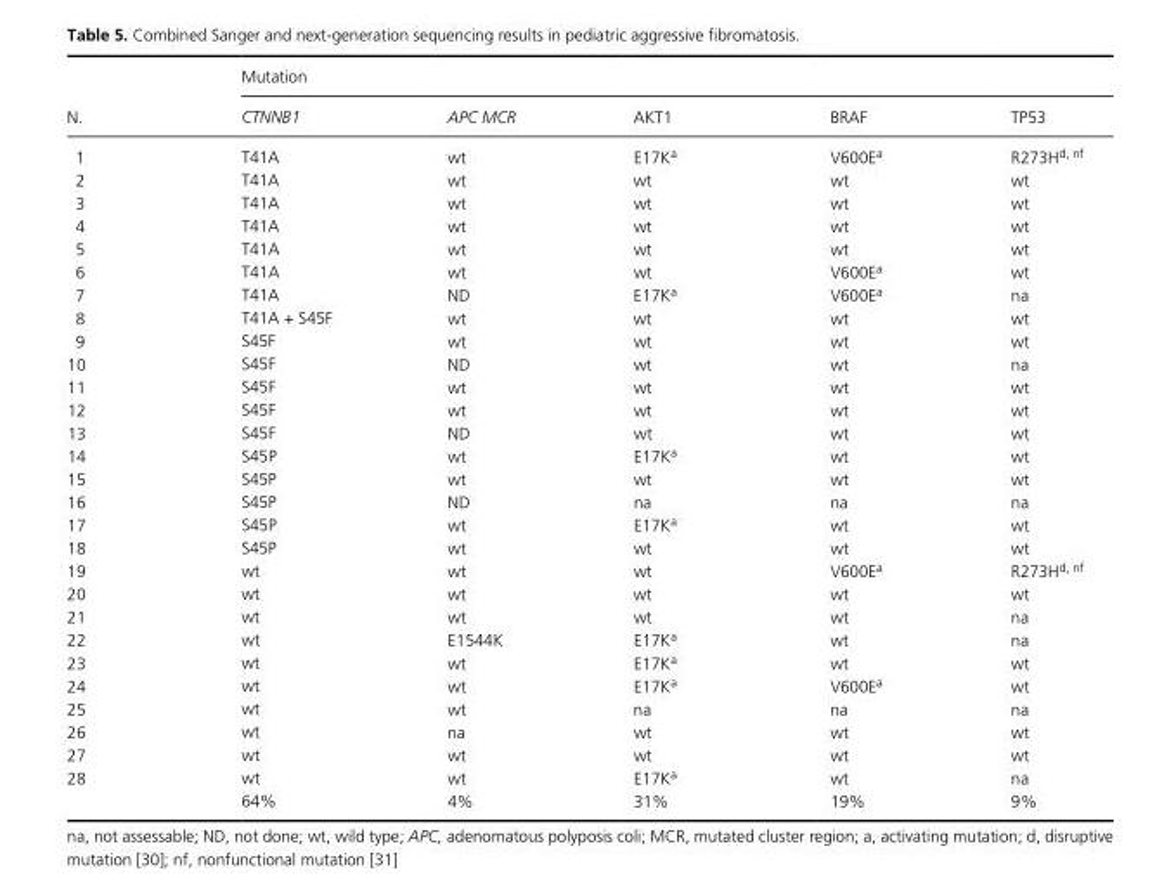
<table><thead><tr><td rowspan="2">N.</td><td colspan="5">Mutation</td></tr><tr><td>CTNNB1</td><td>APC MCR</td><td>AKT1</td><td>BRAF</td><td>TP53</td></tr></thead><tbody><tr><td>1</td><td>T41A</td><td>wt</td><td>E17K<sup>a</sup></td><td>V600E<sup>a</sup></td><td>R273H<sup>d, nf</sup></td></tr><tr><td>2</td><td>T41A</td><td>wt</td><td>wt</td><td>wt</td><td>wt</td></tr><tr><td>3</td><td>T41A</td><td>wt</td><td>wt</td><td>wt</td><td>wt</td></tr><tr><td>4</td><td>T41A</td><td>wt</td><td>wt</td><td>wt</td><td>wt</td></tr><tr><td>5</td><td>T41A</td><td>wt</td><td>wt</td><td>wt</td><td>wt</td></tr><tr><td>6</td><td>T41A</td><td>wt</td><td>wt</td><td>V600E<sup>a</sup></td><td>wt</td></tr><tr><td>7</td><td>T41A</td><td>ND</td><td>E17K<sup>a</sup></td><td>V600E<sup>a</sup></td><td>na</td></tr><tr><td>8</td><td>T41A + S45F</td><td>wt</td><td>wt</td><td>wt</td><td>wt</td></tr><tr><td>9</td><td>S45F</td><td>wt</td><td>wt</td><td>wt</td><td>wt</td></tr><tr><td>10</td><td>S45F</td><td>ND</td><td>wt</td><td>wt</td><td>na</td></tr><tr><td>11</td><td>S45F</td><td>wt</td><td>wt</td><td>wt</td><td>wt</td></tr><tr><td>12</td><td>S45F</td><td>wt</td><td>wt</td><td>wt</td><td>wt</td></tr><tr><td>13</td><td>S45F</td><td>ND</td><td>wt</td><td>wt</td><td>wt</td></tr><tr><td>14</td><td>S45P</td><td>wt</td><td>E17K<sup>a</sup></td><td>wt</td><td>wt</td></tr><tr><td>15</td><td>S45P</td><td>wt</td><td>wt</td><td>wt</td><td>wt</td></tr><tr><td>16</td><td>S45P</td><td>ND</td><td>na</td><td>na</td><td>na</td></tr><tr><td>17</td><td>S45P</td><td>wt</td><td>E17K<sup>a</sup></td><td>wt</td><td>wt</td></tr><tr><td>18</td><td>S45P</td><td>wt</td><td>wt</td><td>wt</td><td>wt</td></tr><tr><td>19</td><td>wt</td><td>wt</td><td>wt</td><td>V600E<sup>a</sup></td><td>R273H<sup>d, nf</sup></td></tr><tr><td>20</td><td>wt</td><td>wt</td><td>wt</td><td>wt</td><td>wt</td></tr><tr><td>21</td><td>wt</td><td>wt</td><td>wt</td><td>wt</td><td>na</td></tr><tr><td>22</td><td>wt</td><td>E1544K</td><td>E17K<sup>a</sup></td><td>wt</td><td>na</td></tr><tr><td>23</td><td>wt</td><td>wt</td><td>E17K<sup>a</sup></td><td>wt</td><td>wt</td></tr><tr><td>24</td><td>wt</td><td>wt</td><td>E17K<sup>a</sup></td><td>V600E<sup>a</sup></td><td>wt</td></tr><tr><td>25</td><td>wt</td><td>wt</td><td>na</td><td>na</td><td>na</td></tr><tr><td>26</td><td>wt</td><td>na</td><td>wt</td><td>wt</td><td>wt</td></tr><tr><td>27</td><td>wt</td><td>wt</td><td>wt</td><td>wt</td><td>wt</td></tr><tr><td rowspan="2">28</td><td>wt</td><td>wt</td><td>E17K<sup>a</sup></td><td>wt</td><td>na</td></tr><tr><td>64%</td><td>4%</td><td>31%</td><td>19%</td><td>9%</td></tr></tbody></table>